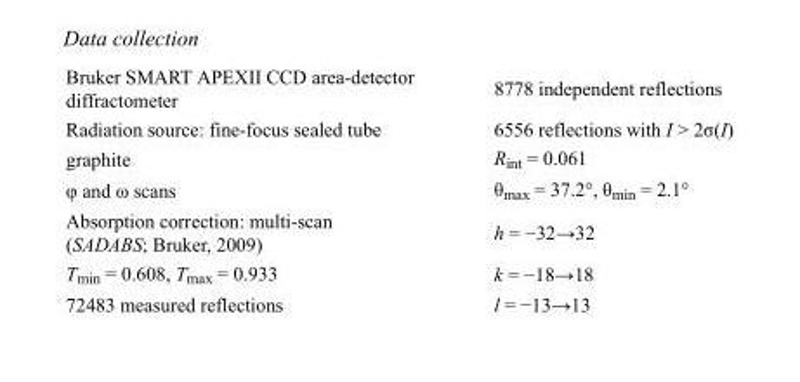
<table><tbody><tr><td>Bruker SMART APEXII CCD area-detector diffractometer</td><td>8778 independent reflections</td></tr><tr><td>Radiation source: fine-focus sealed tube</td><td>6556 reflections with I &gt; 2σ(I)</td></tr><tr><td>graphite</td><td>R<sub>int</sub> = 0.061</td></tr><tr><td>φ and ω scans</td><td>θ<sub>max</sub> = 37.2°, θ<sub>min</sub> = 2.1°</td></tr><tr><td>Absorption correction: multi-scan (SADABS; Bruker, 2009)</td><td>h = −32→32</td></tr><tr><td>T<sub>min</sub> = 0.608, T<sub>max</sub> = 0.933</td><td>k = −18→18</td></tr><tr><td>72483 measured reflections</td><td>l = −13→13</td></tr></tbody></table>